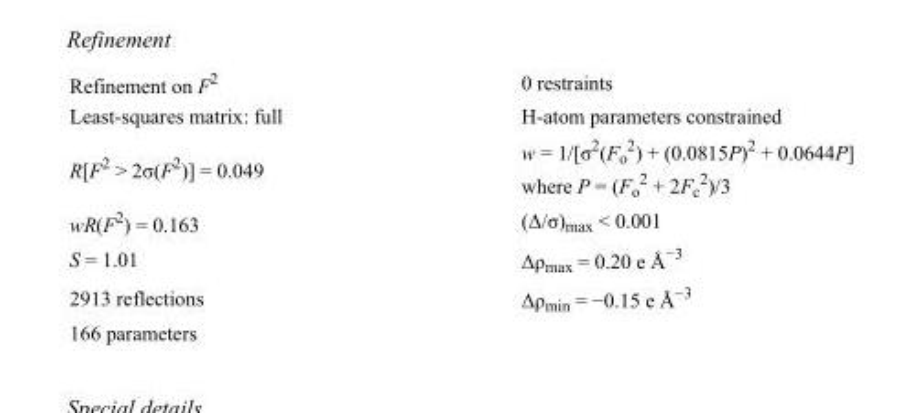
<table><tbody><tr><td>Refinement on F<sup>2</sup></td><td>0 restraints</td></tr><tr><td>Least-squares matrix: full</td><td>H-atom parameters constrained</td></tr><tr><td>R[F<sup>2</sup> &gt; 2σ(F<sup>2</sup>)] = 0.049</td><td>w = 1/[σ<sup>2</sup>(F<sub>o</sub> <sup>2</sup>) + (0.0815P)<sup>2</sup> + 0.0644P] where P = (F<sub>o</sub> <sup>2</sup> + 2F<sub>c</sub> <sup>2</sup>)/3</td></tr><tr><td>wR(F<sup>2</sup>) = 0.163</td><td>(Δ/σ)<sub>max</sub> &lt; 0.001</td></tr><tr><td>S = 1.01</td><td>Δρ<sub>max</sub> = 0.20 e Å<sup>−3</sup></td></tr><tr><td>2913 reflections</td><td>Δρ<sub>min</sub> = −0.15 e Å<sup>−3</sup></td></tr><tr><td>166 parameters</td><td></td></tr></tbody></table>